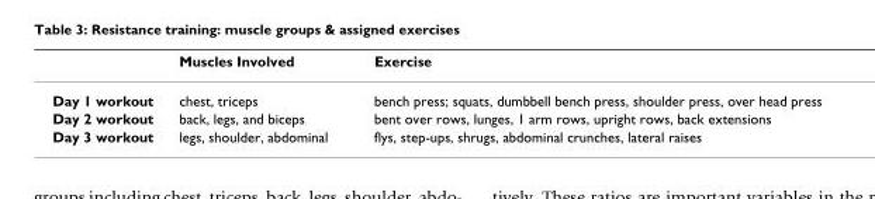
<table><thead><tr><td></td><td>Muscles Involved</td><td>Exercise</td></tr></thead><tbody><tr><td>Day 1 workout</td><td>chest, triceps</td><td>bench press; squats, dumbbell bench press, shoulder press, over head press</td></tr><tr><td>Day 2 workout</td><td>back, legs, and biceps</td><td>bent over rows, lunges, 1 arm rows, upright rows, back extensions</td></tr><tr><td>Day 3 workout</td><td>legs, shoulder, abdominal</td><td>flys, step-ups, shrugs, abdominal crunches, lateral raises</td></tr></tbody></table>